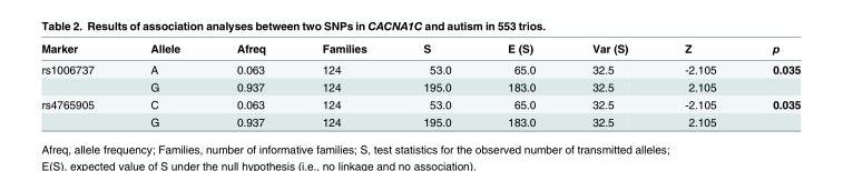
<table><thead><tr><td>Marker</td><td>Allele</td><td>Afreq</td><td>Families</td><td>S</td><td>E (S)</td><td>Var (S)</td><td>Z</td><td>p</td></tr></thead><tbody><tr><td rowspan="2">rs1006737</td><td>A</td><td>0.063</td><td>124</td><td>53.0</td><td>65.0</td><td>32.5</td><td>-2.105</td><td>0.035</td></tr><tr><td>G</td><td>0.937</td><td>124</td><td>195.0</td><td>183.0</td><td>32.5</td><td>2.105</td><td></td></tr><tr><td rowspan="2">rs4765905</td><td>C</td><td>0.063</td><td>124</td><td>53.0</td><td>65.0</td><td>32.5</td><td>-2.105</td><td>0.035</td></tr><tr><td>G</td><td>0.937</td><td>124</td><td>195.0</td><td>183.0</td><td>32.5</td><td>2.105</td><td></td></tr></tbody></table>